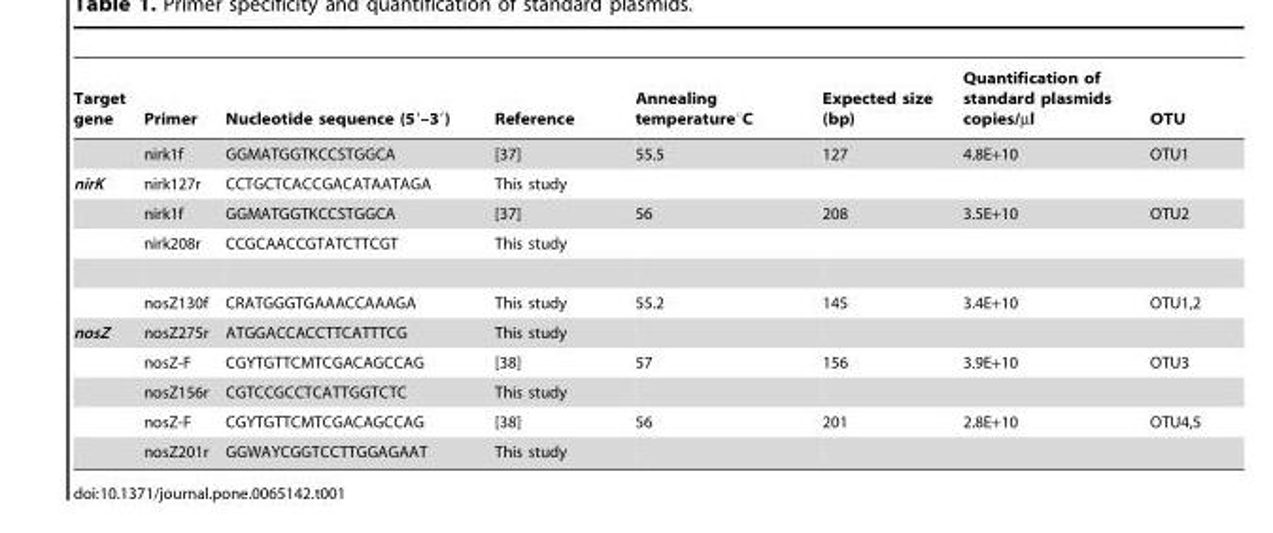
<table><thead><tr><td>Target gene</td><td>Primer</td><td>Nucleotide sequence (5′–3′)</td><td>Reference</td><td>Annealing temperature°C</td><td>Expected size (bp)</td><td>Quantification of standard plasmids copies/µl</td><td>OTU</td></tr></thead><tbody><tr><td></td><td>nirk1f</td><td>GGMATGGTKCCSTGGCA</td><td>[37]</td><td>55.5</td><td>127</td><td>4.8E+10</td><td>OTU1</td></tr><tr><td rowspan="4">nirK</td><td>nirk127r</td><td>CCTGCTCACCGACATAATAGA</td><td>This study</td><td></td><td></td><td></td><td></td></tr><tr><td>nirk1f</td><td>GGMATGGTKCCSTGGCA</td><td>[37]</td><td>56</td><td>208</td><td>3.5E+10</td><td>OTU2</td></tr><tr><td>nirk208r</td><td>CCGCAACCGTATCTTCGT</td><td>This study</td><td></td><td></td><td></td><td></td></tr><tr><td>nosZ130f</td><td>CRATGGGTGAAACCAAAGA</td><td>This study</td><td>55.2</td><td>145</td><td>3.4E+10</td><td>OTU1,2</td></tr><tr><td rowspan="5">nosZ</td><td>nosZ275r</td><td>ATGGACCACCTTCATTTCG</td><td>This study</td><td></td><td></td><td></td><td></td></tr><tr><td>nosZ-F</td><td>CGYTGTTCMTCGACAGCCAG</td><td>[38]</td><td>57</td><td>156</td><td>3.9E+10</td><td>OTU3</td></tr><tr><td>nosZ156r</td><td>CGTCCGCCTCATTGGTCTC</td><td>This study</td><td></td><td></td><td></td><td></td></tr><tr><td>nosZ-F</td><td>CGYTGTTCMTCGACAGCCAG</td><td>[38]</td><td>56</td><td>201</td><td>2.8E+10</td><td>OTU4,5</td></tr><tr><td>nosZ201r</td><td>GGWAYCGGTCCTTGGAGAAT</td><td>This study</td><td></td><td></td><td></td><td></td></tr></tbody></table>